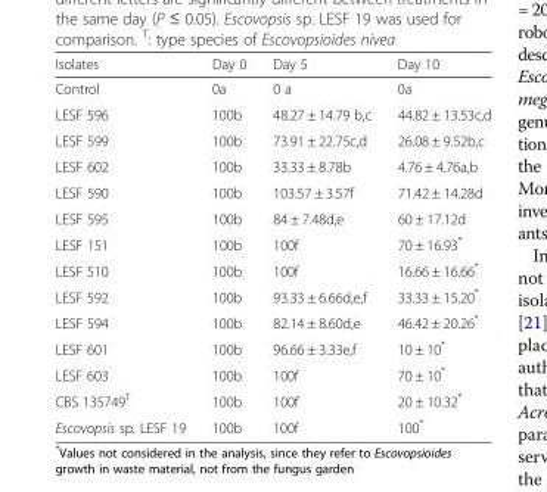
<table><thead><tr><td>Isolates</td><td>Day 0</td><td>Day 5</td><td>Day 10</td></tr></thead><tbody><tr><td>Control</td><td>0a</td><td>0 a</td><td>0a</td></tr><tr><td>LESF 596</td><td>100b</td><td>48.27 ± 14.79 b,c</td><td>44.82 ± 13.53c,d</td></tr><tr><td>LESF 599</td><td>100b</td><td>73.91 ± 22.75c,d</td><td>26.08 ± 9.52b,c</td></tr><tr><td>LESF 602</td><td>100b</td><td>33.33 ± 8.78b</td><td>4.76 ± 4.76a,b</td></tr><tr><td>LESF 590</td><td>100b</td><td>103.57 ± 3.57f</td><td>71.42 ± 14.28d</td></tr><tr><td>LESF 595</td><td>100b</td><td>84 ± 7.48d,e</td><td>60 ± 17.12d</td></tr><tr><td>LESF 151</td><td>100b</td><td>100f</td><td>70 ± 16.93*</td></tr><tr><td>LESF 510</td><td>100b</td><td>100f</td><td>16.66 ± 16.66*</td></tr><tr><td>LESF 592</td><td>100b</td><td>93.33 ± 6.66d,e,f</td><td>33.33 ± 15.20*</td></tr><tr><td>LESF 594</td><td>100b</td><td>82.14 ± 8.60d,e</td><td>46.42 ± 20.26*</td></tr><tr><td>LESF 601</td><td>100b</td><td>96.66 ± 3.33e,f</td><td>10 ± 10*</td></tr><tr><td>LESF 603</td><td>100b</td><td>100f</td><td>70 ± 10*</td></tr><tr><td>CBS 135749<sup>T</sup></td><td>100b</td><td>100f</td><td>20 ± 10.32*</td></tr><tr><td>Escovopsis sp. LESF 19</td><td>100b</td><td>100f</td><td>100*</td></tr></tbody></table>